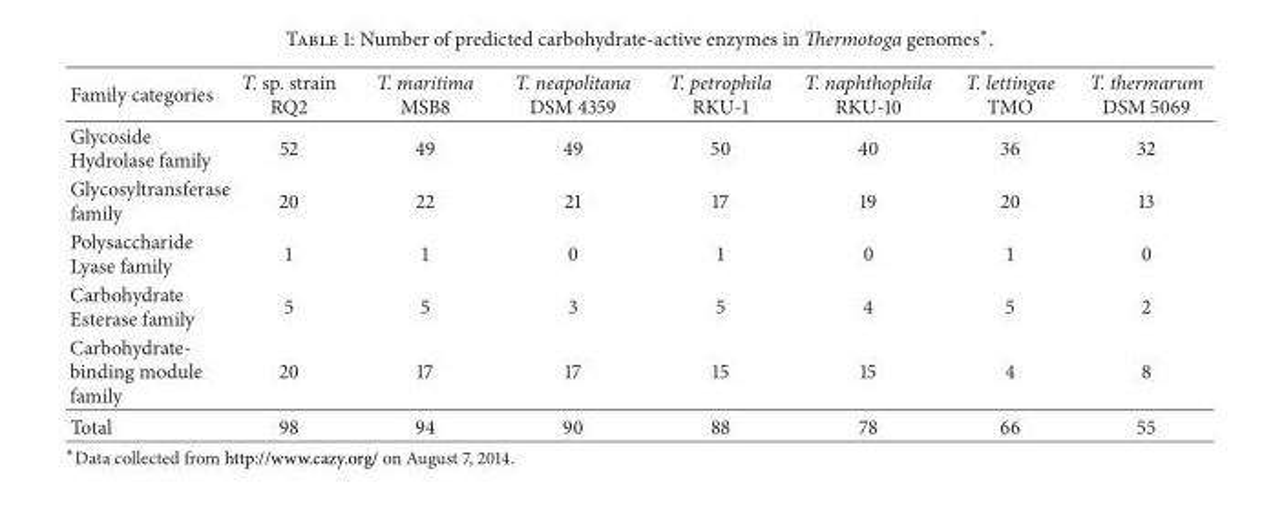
<table><thead><tr><td>Family categories</td><td>T. sp. strain RQ2</td><td>T. maritima MSB8</td><td>T. neapolitana DSM 4359</td><td>T. petrophila RKU-1</td><td>T. naphthophila RKU-10</td><td>T. lettingae TMO</td><td>T. thermarum DSM 5069</td></tr></thead><tbody><tr><td>Glycoside Hydrolase family</td><td>52</td><td>49</td><td>49</td><td>50</td><td>40</td><td>36</td><td>32</td></tr><tr><td>Glycosyltransferase family</td><td>20</td><td>22</td><td>21</td><td>17</td><td>19</td><td>20</td><td>13</td></tr><tr><td>Polysaccharide Lyase family</td><td>1</td><td>1</td><td>0</td><td>1</td><td>0</td><td>1</td><td>0</td></tr><tr><td>Carbohydrate Esterase family</td><td>5</td><td>5</td><td>3</td><td>5</td><td>4</td><td>5</td><td>2</td></tr><tr><td>Carbohydrate- binding module family</td><td>20</td><td>17</td><td>17</td><td>15</td><td>15</td><td>4</td><td>8</td></tr><tr><td>Total</td><td>98</td><td>94</td><td>90</td><td>88</td><td>78</td><td>66</td><td>55</td></tr></tbody></table>